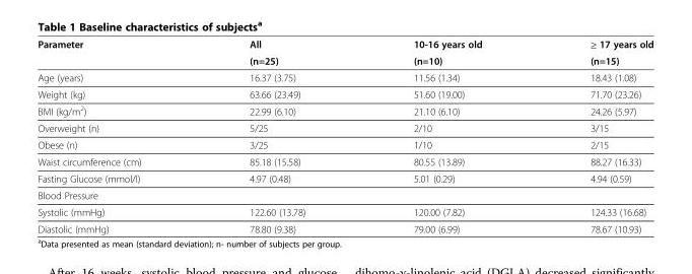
<table><thead><tr><td rowspan="2">Parameter</td><td rowspan="2">All (n=25)</td><td rowspan="2">10-16 years old (n=10)</td><td rowspan="2">≥ 17 years old (n=15)</td></tr><tr></tr></thead><tbody><tr><td>Age (years)</td><td>16.37 (3.75)</td><td>11.56 (1.34)</td><td>18.43 (1.08)</td></tr><tr><td>Weight (kg)</td><td>63.66 (23.49)</td><td>51.60 (19.00)</td><td>71.70 (23.26)</td></tr><tr><td>BMI (kg/m<sup>2</sup>)</td><td>22.99 (6.10)</td><td>21.10 (6.10)</td><td>24.26 (5.97)</td></tr><tr><td>Overweight (n)</td><td>5/25</td><td>2/10</td><td>3/15</td></tr><tr><td>Obese (n)</td><td>3/25</td><td>1/10</td><td>2/15</td></tr><tr><td>Waist circumference (cm)</td><td>85.18 (15.58)</td><td>80.55 (13.89)</td><td>88.27 (16.33)</td></tr><tr><td>Fasting Glucose (mmol/l)</td><td>4.97 (0.48)</td><td>5.01 (0.29)</td><td>4.94 (0.59)</td></tr><tr><td colspan="4">Blood Pressure</td></tr><tr><td>Systolic (mmHg)</td><td>122.60 (13.78)</td><td>120.00 (7.82)</td><td>124.33 (16.68)</td></tr><tr><td>Diastolic (mmHg)</td><td>78.80 (9.38)</td><td>79.00 (6.99)</td><td>78.67 (10.93)</td></tr></tbody></table>